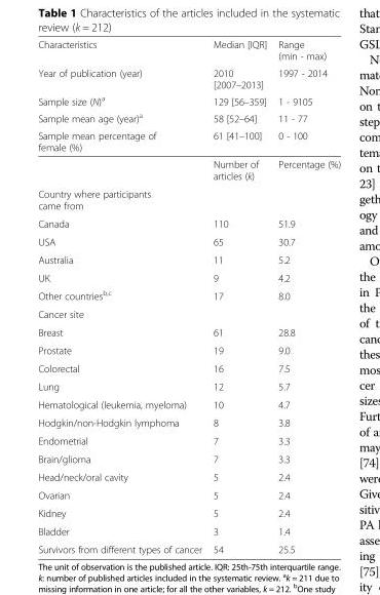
<table><thead><tr><td rowspan="5">Characteristics Year of publication (year) Sample size (N)a Sample mean age (year)a Sample mean percentage of female (%)</td><td rowspan="5">Median [IQR] 2010 [2007–2013] 129 [56–359] 58 [52–64] 61 [41–100]</td><td rowspan="5">Range (min - max) 1997 - 2014 1 - 9105 11 - 77 0 - 100</td></tr><tr></tr><tr></tr><tr></tr><tr></tr></thead><tbody><tr><td></td><td>Number of articles (k)</td><td>Percentage (%)</td></tr><tr><td colspan="3">Country where participants came from</td></tr><tr><td>Canada</td><td>110</td><td>51.9</td></tr><tr><td>USA</td><td>65</td><td>30.7</td></tr><tr><td>Australia</td><td>11</td><td>5.2</td></tr><tr><td>UK</td><td>9</td><td>4.2</td></tr><tr><td>Other countries<sup>b,c</sup></td><td>17</td><td>8.0</td></tr><tr><td colspan="3">Cancer site</td></tr><tr><td>Breast</td><td>61</td><td>28.8</td></tr><tr><td>Prostate</td><td>19</td><td>9.0</td></tr><tr><td>Colorectal</td><td>16</td><td>7.5</td></tr><tr><td>Lung</td><td>12</td><td>5.7</td></tr><tr><td>Hematological (leukemia, myeloma)</td><td>10</td><td>4.7</td></tr><tr><td>Hodgkin/non-Hodgkin lymphoma</td><td>8</td><td>3.8</td></tr><tr><td>Endometrial</td><td>7</td><td>3.3</td></tr><tr><td>Brain/glioma</td><td>7</td><td>3.3</td></tr><tr><td>Head/neck/oral cavity</td><td>5</td><td>2.4</td></tr><tr><td>Ovarian</td><td>5</td><td>2.4</td></tr><tr><td>Kidney</td><td>5</td><td>2.4</td></tr><tr><td>Bladder</td><td>3</td><td>1.4</td></tr><tr><td>Survivors from different types of cancer</td><td>54</td><td>25.5</td></tr></tbody></table>